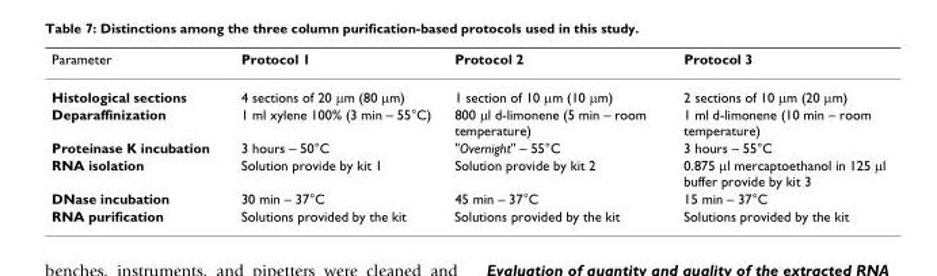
<table><thead><tr><td>Parameter</td><td>Protocol 1</td><td>Protocol 2</td><td>Protocol 3</td></tr></thead><tbody><tr><td>Histological sections</td><td>4 sections of 20 μm (80 μm)</td><td>1 section of 10 μm (10 μm)</td><td>2 sections of 10 μm (20 μm)</td></tr><tr><td>Deparaffinization</td><td>1 ml xylene 100% (3 min – 55°C)</td><td>800 μl d-limonene (5 min – room temperature)</td><td>1 ml d-limonene (10 min – room temperature)</td></tr><tr><td>Proteinase K incubation</td><td>3 hours – 50°C</td><td>&quot;Overnight&quot; – 55°C</td><td>3 hours – 55°C</td></tr><tr><td>RNA isolation</td><td>Solution provide by kit 1</td><td>Solution provide by kit 2</td><td>0.875 μl mercaptoethanol in 125 μl buffer provide by kit 3</td></tr><tr><td>DNase incubation</td><td>30 min – 37°C</td><td>45 min – 37°C</td><td>15 min – 37°C</td></tr><tr><td>RNA purification</td><td>Solutions provided by the kit</td><td>Solutions provided by the kit</td><td>Solutions provided by the kit</td></tr></tbody></table>